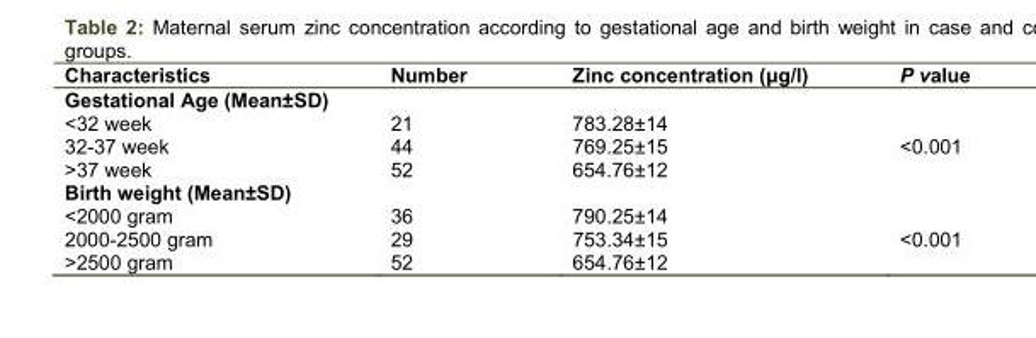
<table><thead><tr><td>Characteristics</td><td>Number</td><td>Zinc concentration (μg/l)</td><td>P value</td></tr></thead><tbody><tr><td colspan="4">Gestational Age (Mean±SD)</td></tr><tr><td>&lt;32 week</td><td>21</td><td>783.28±14</td><td></td></tr><tr><td>32-37 week</td><td>44</td><td>769.25±15</td><td>&lt;0.001</td></tr><tr><td>&gt;37 week</td><td>52</td><td>654.76±12</td><td></td></tr><tr><td colspan="4">Birth weight (Mean±SD)</td></tr><tr><td>&lt;2000 gram</td><td>36</td><td>790.25±14</td><td></td></tr><tr><td>2000-2500 gram</td><td>29</td><td>753.34±15</td><td>&lt;0.001</td></tr><tr><td>&gt;2500 gram</td><td>52</td><td>654.76±12</td><td></td></tr></tbody></table>